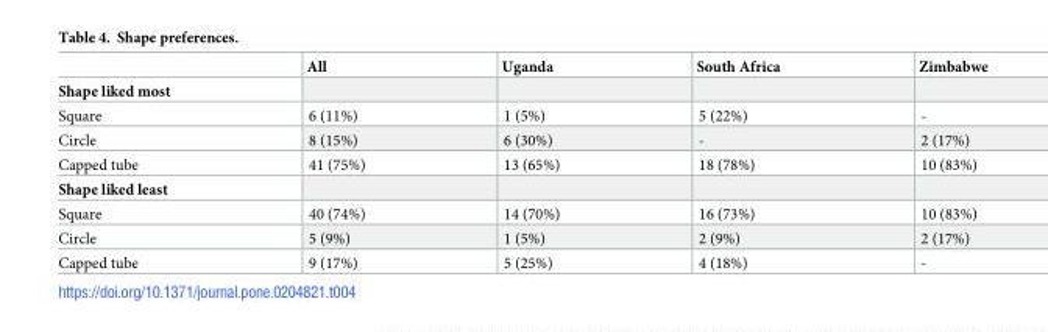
<table><thead><tr><td></td><td>All</td><td>Uganda</td><td>South Africa</td><td>Zimbabwe</td></tr></thead><tbody><tr><td colspan="5">Shape liked most</td></tr><tr><td>Square</td><td>6 (11%)</td><td>1 (5%)</td><td>5 (22%)</td><td>-</td></tr><tr><td>Circle</td><td>8 (15%)</td><td>6 (30%)</td><td>-</td><td>2 (17%)</td></tr><tr><td>Capped tube</td><td>41 (75%)</td><td>13 (65%)</td><td>18 (78%)</td><td>10 (83%)</td></tr><tr><td colspan="5">Shape liked least</td></tr><tr><td>Square</td><td>40 (74%)</td><td>14 (70%)</td><td>16 (73%)</td><td>10 (83%)</td></tr><tr><td>Circle</td><td>5 (9%)</td><td>1 (5%)</td><td>2 (9%)</td><td>2 (17%)</td></tr><tr><td>Capped tube</td><td>9 (17%)</td><td>5 (25%)</td><td>4 (18%)</td><td>-</td></tr></tbody></table>